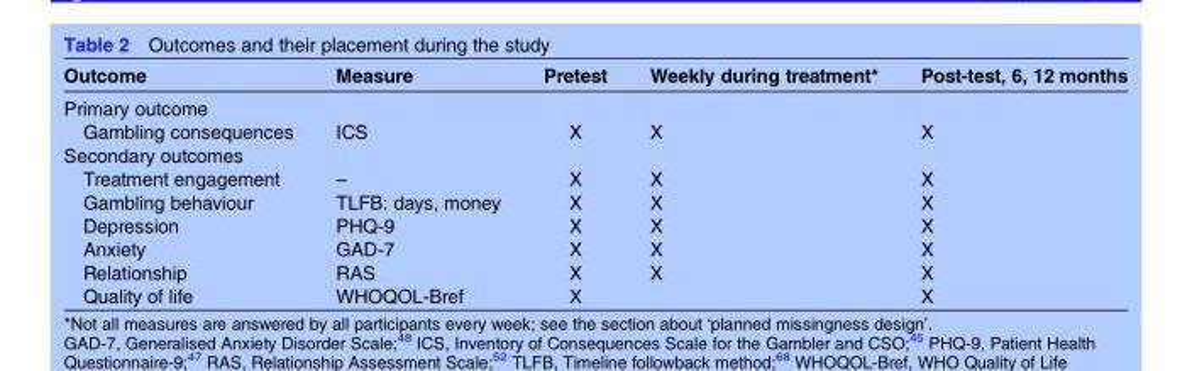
<table><thead><tr><td>Outcome</td><td>Measure</td><td>Pretest</td><td>Weekly during treatment*</td><td>Post-test, 6, 12 months</td></tr></thead><tbody><tr><td colspan="5">Primary outcome</td></tr><tr><td>Gambling consequences</td><td>ICS</td><td>X</td><td>X</td><td>X</td></tr><tr><td colspan="5">Secondary outcomes</td></tr><tr><td>Treatment engagement</td><td>–</td><td>X</td><td>X</td><td>X</td></tr><tr><td>Gambling behaviour</td><td>TLFB: days, money</td><td>X</td><td>X</td><td>X</td></tr><tr><td>Depression</td><td>PHQ-9</td><td>X</td><td>X</td><td>X</td></tr><tr><td>Anxiety</td><td>GAD-7</td><td>X</td><td>X</td><td>X</td></tr><tr><td>Relationship</td><td>RAS</td><td>X</td><td>X</td><td>X</td></tr><tr><td>Quality of life</td><td>WHOQOL-Bref</td><td>X</td><td></td><td>X</td></tr></tbody></table>